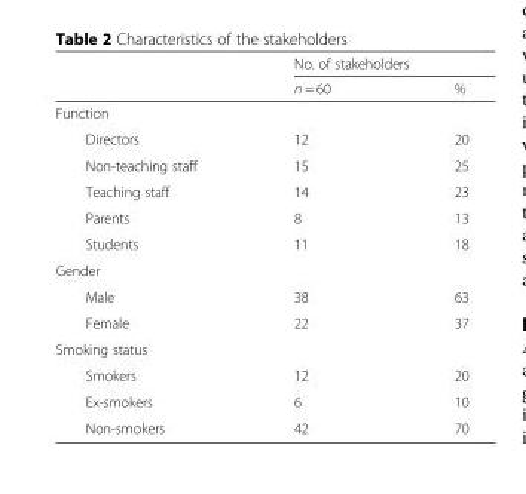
<table><thead><tr><td rowspan="2"></td><td colspan="2">No. of stakeholders</td></tr><tr><td>n = 60</td><td>%</td></tr></thead><tbody><tr><td colspan="3">Function</td></tr><tr><td>Directors</td><td>12</td><td>20</td></tr><tr><td>Non-teaching staff</td><td>15</td><td>25</td></tr><tr><td>Teaching staff</td><td>14</td><td>23</td></tr><tr><td>Parents</td><td>8</td><td>13</td></tr><tr><td>Students</td><td>11</td><td>18</td></tr><tr><td colspan="3">Gender</td></tr><tr><td>Male</td><td>38</td><td>63</td></tr><tr><td>Female</td><td>22</td><td>37</td></tr><tr><td colspan="3">Smoking status</td></tr><tr><td>Smokers</td><td>12</td><td>20</td></tr><tr><td>Ex-smokers</td><td>6</td><td>10</td></tr><tr><td>Non-smokers</td><td>42</td><td>70</td></tr></tbody></table>